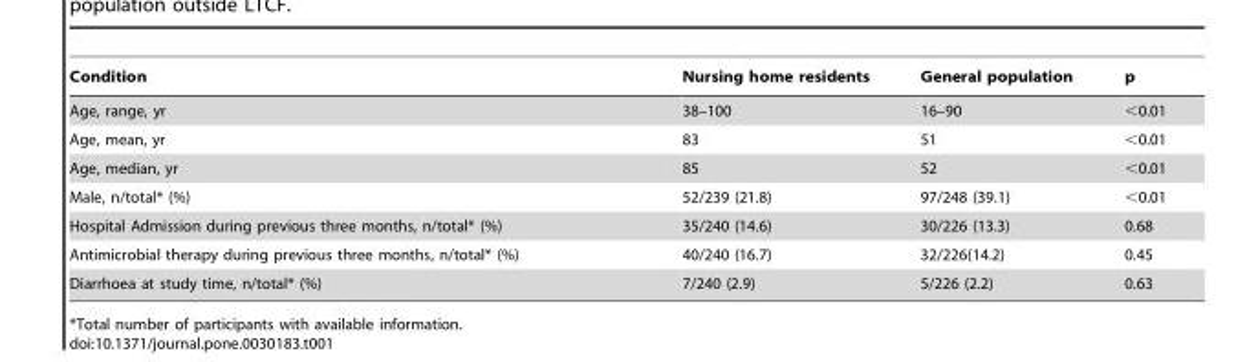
<table><thead><tr><td>Condition</td><td>Nursing home residents</td><td>General population</td><td>p</td></tr></thead><tbody><tr><td>Age, range, yr</td><td>38–100</td><td>16–90</td><td>&lt;0.01</td></tr><tr><td>Age, mean, yr</td><td>83</td><td>51</td><td>&lt;0.01</td></tr><tr><td>Age, median, yr</td><td>85</td><td>52</td><td>&lt;0.01</td></tr><tr><td>Male, n/total* (%)</td><td>52/239 (21.8)</td><td>97/248 (39.1)</td><td>&lt;0.01</td></tr><tr><td>Hospital Admission during previous three months, n/total* (%)</td><td>35/240 (14.6)</td><td>30/226 (13.3)</td><td>0.68</td></tr><tr><td>Antimicrobial therapy during previous three months, n/total* (%)</td><td>40/240 (16.7)</td><td>32/226(14.2)</td><td>0.45</td></tr><tr><td>Diarrhoea at study time, n/total* (%)</td><td>7/240 (2.9)</td><td>5/226 (2.2)</td><td>0.63</td></tr></tbody></table>